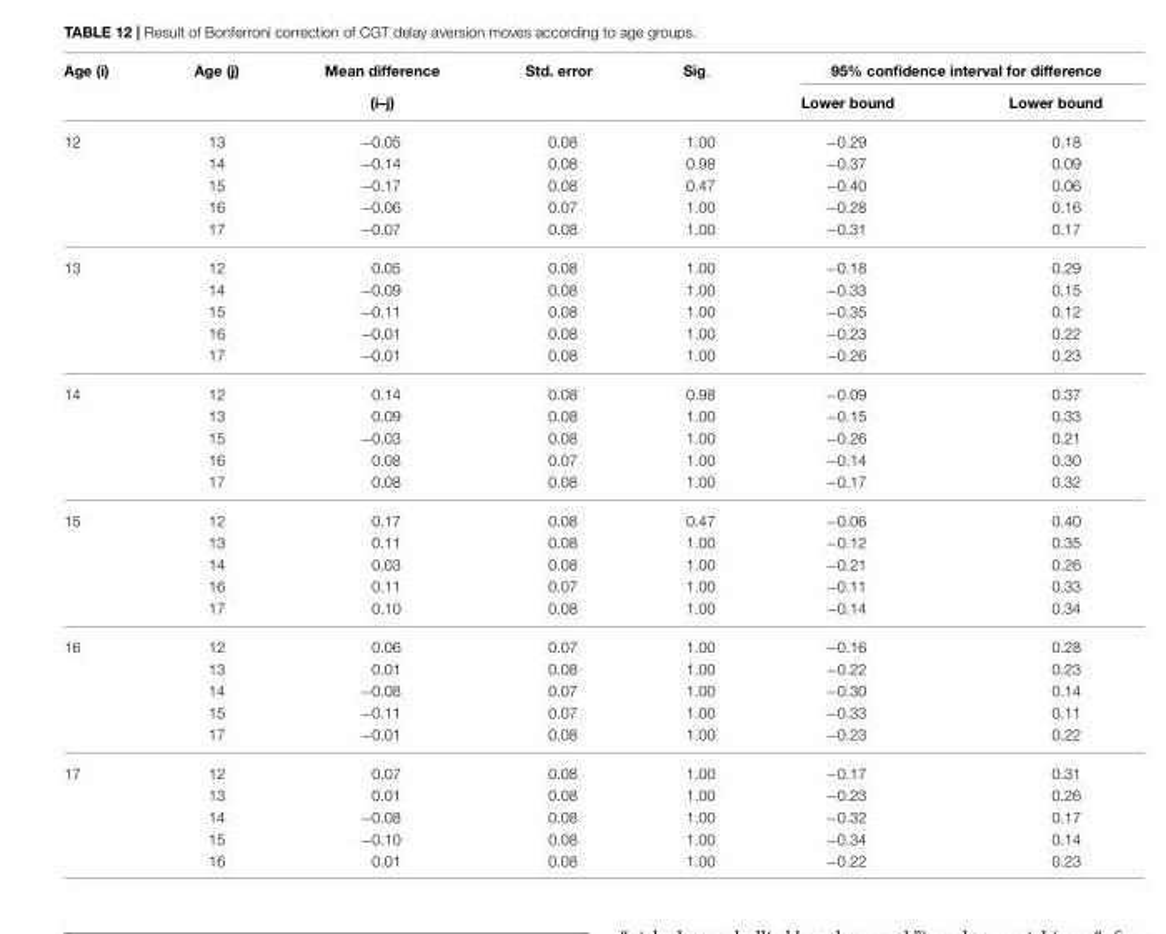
<table><thead><tr><td rowspan="2">Age (i)</td><td rowspan="2">Age (j)</td><td rowspan="2">Mean difference (i–j)</td><td rowspan="2">Std. error</td><td rowspan="2">Sig.</td><td colspan="2">95% confidence interval for difference</td></tr><tr><td>Lower bound</td><td>Lower bound</td></tr></thead><tbody><tr><td rowspan="5">12</td><td>13</td><td>−0.05</td><td>0.08</td><td>1.00</td><td>−0.29</td><td>0.18</td></tr><tr><td>14</td><td>−0.14</td><td>0.08</td><td>0.98</td><td>−0.37</td><td>0.09</td></tr><tr><td>15</td><td>−0.17</td><td>0.08</td><td>0.47</td><td>−0.40</td><td>0.06</td></tr><tr><td>16</td><td>−0.06</td><td>0.07</td><td>1.00</td><td>−0.28</td><td>0.16</td></tr><tr><td>17</td><td>−0.07</td><td>0.08</td><td>1.00</td><td>−0.31</td><td>0.17</td></tr><tr><td rowspan="5">13</td><td>12</td><td>0.05</td><td>0.08</td><td>1.00</td><td>−0.18</td><td>0.29</td></tr><tr><td>14</td><td>−0.09</td><td>0.08</td><td>1.00</td><td>−0.33</td><td>0.15</td></tr><tr><td>15</td><td>−0.11</td><td>0.08</td><td>1.00</td><td>−0.35</td><td>0.12</td></tr><tr><td>16</td><td>−0.01</td><td>0.08</td><td>1.00</td><td>−0.23</td><td>0.22</td></tr><tr><td>17</td><td>−0.01</td><td>0.08</td><td>1.00</td><td>−0.26</td><td>0.23</td></tr><tr><td rowspan="5">14</td><td>12</td><td>0.14</td><td>0.08</td><td>0.98</td><td>−0.09</td><td>0.37</td></tr><tr><td>13</td><td>0.09</td><td>0.08</td><td>1.00</td><td>−0.15</td><td>0.33</td></tr><tr><td>15</td><td>−0.03</td><td>0.08</td><td>1.00</td><td>−0.26</td><td>0.21</td></tr><tr><td>16</td><td>0.08</td><td>0.07</td><td>1.00</td><td>−0.14</td><td>0.30</td></tr><tr><td>17</td><td>0.08</td><td>0.08</td><td>1.00</td><td>−0.17</td><td>0.32</td></tr><tr><td rowspan="5">15</td><td>12</td><td>0.17</td><td>0.08</td><td>0.47</td><td>−0.06</td><td>0.40</td></tr><tr><td>13</td><td>0.11</td><td>0.08</td><td>1.00</td><td>−0.12</td><td>0.35</td></tr><tr><td>14</td><td>0.03</td><td>0.08</td><td>1.00</td><td>−0.21</td><td>0.26</td></tr><tr><td>16</td><td>0.11</td><td>0.07</td><td>1.00</td><td>−0.11</td><td>0.33</td></tr><tr><td>17</td><td>0.10</td><td>0.08</td><td>1.00</td><td>−0.14</td><td>0.34</td></tr><tr><td rowspan="5">16</td><td>12</td><td>0.06</td><td>0.07</td><td>1.00</td><td>−0.16</td><td>0.28</td></tr><tr><td>13</td><td>0.01</td><td>0.08</td><td>1.00</td><td>−0.22</td><td>0.23</td></tr><tr><td>14</td><td>−0.08</td><td>0.07</td><td>1.00</td><td>−0.30</td><td>0.14</td></tr><tr><td>15</td><td>−0.11</td><td>0.07</td><td>1.00</td><td>−0.33</td><td>0.11</td></tr><tr><td>17</td><td>−0.01</td><td>0.08</td><td>1.00</td><td>−0.23</td><td>0.22</td></tr><tr><td rowspan="5">17</td><td>12</td><td>0.07</td><td>0.08</td><td>1.00</td><td>−0.17</td><td>0.31</td></tr><tr><td>13</td><td>0.01</td><td>0.08</td><td>1.00</td><td>−0.23</td><td>0.26</td></tr><tr><td>14</td><td>−0.08</td><td>0.08</td><td>1.00</td><td>−0.32</td><td>0.17</td></tr><tr><td>15</td><td>−0.10</td><td>0.08</td><td>1.00</td><td>−0.34</td><td>0.14</td></tr><tr><td>16</td><td>0.01</td><td>0.08</td><td>1.00</td><td>−0.22</td><td>0.23</td></tr></tbody></table>